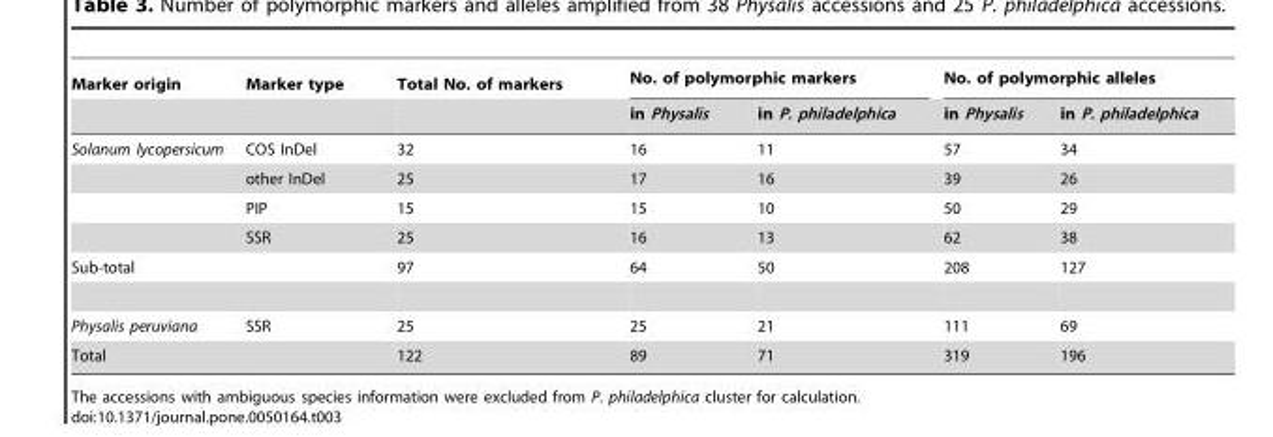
<table><thead><tr><td rowspan="2">Marker origin</td><td rowspan="2">Marker type</td><td rowspan="2">Total No. of markers</td><td colspan="2">No. of polymorphic markers</td><td colspan="2">No. of polymorphic alleles</td></tr><tr><td>in Physalis</td><td>in P. philadelphica</td><td>in Physalis</td><td>in P. philadelphica</td></tr></thead><tbody><tr><td rowspan="4">Solanum lycopersicum</td><td>COS InDel</td><td>32</td><td>16</td><td>11</td><td>57</td><td>34</td></tr><tr><td>other InDel</td><td>25</td><td>17</td><td>16</td><td>39</td><td>26</td></tr><tr><td>PIP</td><td>15</td><td>15</td><td>10</td><td>50</td><td>29</td></tr><tr><td>SSR</td><td>25</td><td>16</td><td>13</td><td>62</td><td>38</td></tr><tr><td>Sub-total</td><td></td><td>97</td><td>64</td><td>50</td><td>208</td><td>127</td></tr><tr><td>Physalis peruviana</td><td>SSR</td><td>25</td><td>25</td><td>21</td><td>111</td><td>69</td></tr><tr><td>Total</td><td></td><td>122</td><td>89</td><td>71</td><td>319</td><td>196</td></tr></tbody></table>